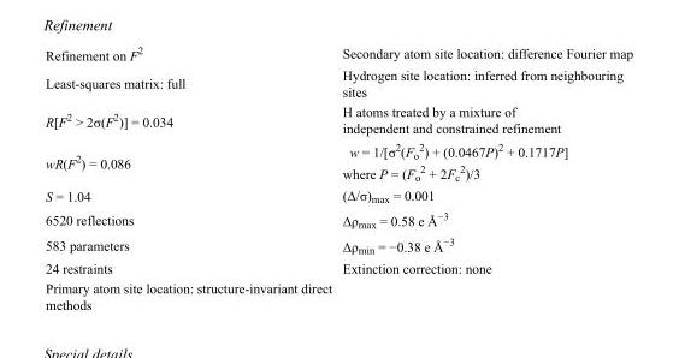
<table><tbody><tr><td>Refinement on F<sup>2</sup></td><td>Secondary atom site location: difference Fourier map</td></tr><tr><td>Least-squares matrix: full</td><td>Hydrogen site location: inferred from neighbouring sites</td></tr><tr><td>R[F<sup>2</sup> &gt; 2σ(F<sup>2</sup>)] = 0.034</td><td>H atoms treated by a mixture of independent and constrained refinement</td></tr><tr><td>wR(F<sup>2</sup>) = 0.086</td><td>w = 1/[σ<sup>2</sup>(F<sub>o</sub> <sup>2</sup>) + (0.0467P)<sup>2</sup> + 0.1717P] where P = (F<sub>o</sub> <sup>2</sup> + 2F<sub>c</sub> <sup>2</sup>)/3</td></tr><tr><td>S = 1.04</td><td>(Δ/σ)<sub>max</sub> = 0.001</td></tr><tr><td>6520 reflections</td><td>Δρ<sub>max</sub> = 0.58 e Å<sup>−3</sup></td></tr><tr><td>583 parameters</td><td>Δρ<sub>min</sub> = −0.38 e Å<sup>−3</sup></td></tr><tr><td>24 restraints</td><td>Extinction correction: none</td></tr><tr><td>Primary atom site location: structure-invariant direct methods</td><td></td></tr></tbody></table>